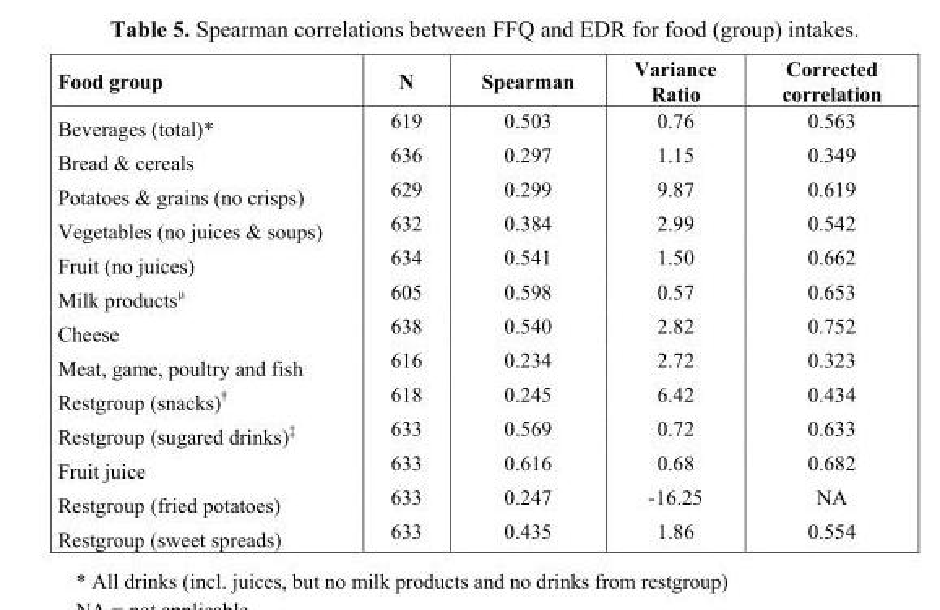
<table><thead><tr><td>Food group</td><td>N</td><td>Spearman</td><td>Variance Ratio</td><td>Corrected correlation</td></tr></thead><tbody><tr><td>Beverages (total)*</td><td>619</td><td>0.503</td><td>0.76</td><td>0.563</td></tr><tr><td>Bread &amp; cereals</td><td>636</td><td>0.297</td><td>1.15</td><td>0.349</td></tr><tr><td>Potatoes &amp; grains (no crisps)</td><td>629</td><td>0.299</td><td>9.87</td><td>0.619</td></tr><tr><td>Vegetables (no juices &amp; soups)</td><td>632</td><td>0.384</td><td>2.99</td><td>0.542</td></tr><tr><td>Fruit (no juices)</td><td>634</td><td>0.541</td><td>1.50</td><td>0.662</td></tr><tr><td>Milk productsµ</td><td>605</td><td>0.598</td><td>0.57</td><td>0.653</td></tr><tr><td>Cheese</td><td>638</td><td>0.540</td><td>2.82</td><td>0.752</td></tr><tr><td>Meat, game, poultry and fish</td><td>616</td><td>0.234</td><td>2.72</td><td>0.323</td></tr><tr><td>Restgroup (snacks)†</td><td>618</td><td>0.245</td><td>6.42</td><td>0.434</td></tr><tr><td>Restgroup (sugared drinks)‡</td><td>633</td><td>0.569</td><td>0.72</td><td>0.633</td></tr><tr><td>Fruit juice</td><td>633</td><td>0.616</td><td>0.68</td><td>0.682</td></tr><tr><td>Restgroup (fried potatoes)</td><td>633</td><td>0.247</td><td>-16.25</td><td>NA</td></tr><tr><td>Restgroup (sweet spreads)</td><td>633</td><td>0.435</td><td>1.86</td><td>0.554</td></tr></tbody></table>